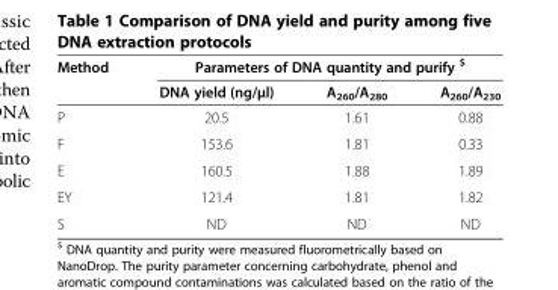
<table><thead><tr><td rowspan="2">Method</td><td colspan="3">Parameters of DNA quantity and purify <sup>$</sup></td></tr><tr><td>DNA yield (ng/μl)</td><td>A<sub>260</sub>/A<sub>280</sub></td><td>A<sub>260</sub>/A<sub>230</sub></td></tr></thead><tbody><tr><td>P</td><td>20.5</td><td>1.61</td><td>0.88</td></tr><tr><td>F</td><td>153.6</td><td>1.81</td><td>0.33</td></tr><tr><td>E</td><td>160.5</td><td>1.88</td><td>1.89</td></tr><tr><td>EY</td><td>121.4</td><td>1.81</td><td>1.82</td></tr><tr><td>S</td><td>ND</td><td>ND</td><td>ND</td></tr></tbody></table>